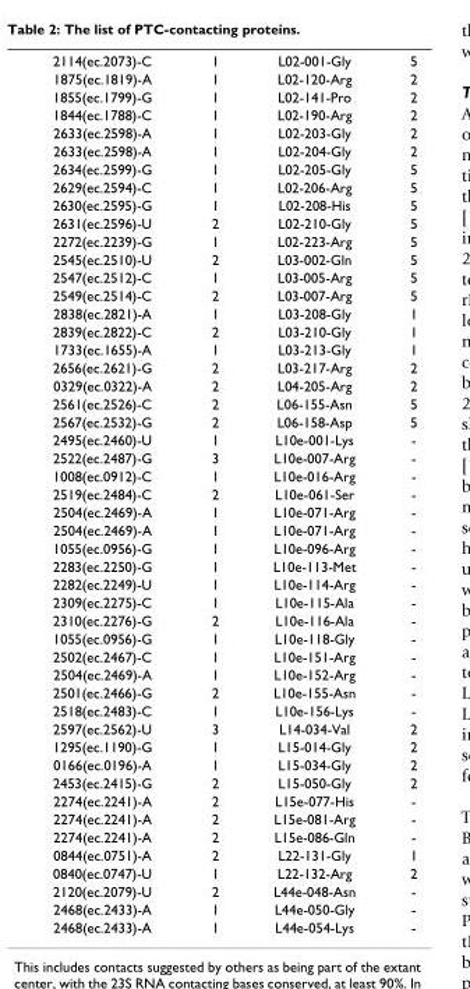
<table><tbody><tr><td>2114(ec.2073)-C</td><td>1</td><td>L02-001-Gly</td><td>5</td></tr><tr><td>1875(ec.1819)-A</td><td>1</td><td>L02-120-Arg</td><td>2</td></tr><tr><td>1855(ec.1799)-G</td><td>1</td><td>L02-141-Pro</td><td>2</td></tr><tr><td>1844(ec.1788)-C</td><td>1</td><td>L02-190-Arg</td><td>2</td></tr><tr><td>2633(ec.2598)-A</td><td>1</td><td>L02-203-Gly</td><td>2</td></tr><tr><td>2633(ec.2598)-A</td><td>1</td><td>L02-204-Gly</td><td>2</td></tr><tr><td>2634(ec.2599)-G</td><td>1</td><td>L02-205-Gly</td><td>5</td></tr><tr><td>2629(ec.2594)-C</td><td>1</td><td>L02-206-Arg</td><td>5</td></tr><tr><td>2630(ec.2595)-G</td><td>1</td><td>L02-208-His</td><td>5</td></tr><tr><td>2631(ec.2596)-U</td><td>2</td><td>L02-210-Gly</td><td>5</td></tr><tr><td>2272(ec.2239)-G</td><td>1</td><td>L02-223-Arg</td><td>5</td></tr><tr><td>2545(ec.2510)-U</td><td>2</td><td>L03-002-Gln</td><td>5</td></tr><tr><td>2547(ec.2512)-C</td><td>1</td><td>L03-005-Arg</td><td>5</td></tr><tr><td>2549(ec.2514)-C</td><td>2</td><td>L03-007-Arg</td><td>5</td></tr><tr><td>2838(ec.2821)-A</td><td>1</td><td>L03-208-Gly</td><td>1</td></tr><tr><td>2839(ec.2822)-C</td><td>2</td><td>L03-210-Gly</td><td>1</td></tr><tr><td>1733(ec.1655)-A</td><td>1</td><td>L03-213-Gly</td><td>1</td></tr><tr><td>2656(ec.2621)-G</td><td>2</td><td>L03-217-Arg</td><td>2</td></tr><tr><td>0329(ec.0322)-A</td><td>2</td><td>L04-205-Arg</td><td>2</td></tr><tr><td>2561(ec.2526)-C</td><td>2</td><td>L06-155-Asn</td><td>5</td></tr><tr><td>2567(ec.2532)-G</td><td>2</td><td>L06-158-Asp</td><td>5</td></tr><tr><td>2495(ec.2460)-U</td><td>1</td><td>L10e-001-Lys</td><td>-</td></tr><tr><td>2522(ec.2487)-G</td><td>3</td><td>L10e-007-Arg</td><td>-</td></tr><tr><td>1008(ec.0912)-C</td><td>1</td><td>L10e-016-Arg</td><td>-</td></tr><tr><td>2519(ec.2484)-C</td><td>2</td><td>L10e-061-Ser</td><td>-</td></tr><tr><td>2504(ec.2469)-A</td><td>1</td><td>L10e-071-Arg</td><td>-</td></tr><tr><td>2504(ec.2469)-A</td><td>1</td><td>L10e-071-Arg</td><td>-</td></tr><tr><td>1055(ec.0956)-G</td><td>1</td><td>L10e-096-Arg</td><td>-</td></tr><tr><td>2283(ec.2250)-G</td><td>1</td><td>L10e-113-Met</td><td>-</td></tr><tr><td>2282(ec.2249)-U</td><td>1</td><td>L10e-114-Arg</td><td>-</td></tr><tr><td>2309(ec.2275)-C</td><td>1</td><td>L10e-115-Ala</td><td>-</td></tr><tr><td>2310(ec.2276)-G</td><td>2</td><td>L10e-116-Ala</td><td>-</td></tr><tr><td>1055(ec.0956)-G</td><td>1</td><td>L10e-118-Gly</td><td>-</td></tr><tr><td>2502(ec.2467)-C</td><td>1</td><td>L10e-151-Arg</td><td>-</td></tr><tr><td>2504(ec.2469)-A</td><td>1</td><td>L10e-152-Arg</td><td>-</td></tr><tr><td>2501(ec.2466)-G</td><td>2</td><td>L10e-155-Asn</td><td>-</td></tr><tr><td>2518(ec.2483)-C</td><td>1</td><td>L10e-156-Lys</td><td>-</td></tr><tr><td>2597(ec.2562)-U</td><td>3</td><td>L14-034-Val</td><td>2</td></tr><tr><td>1295(ec.1190)-G</td><td>1</td><td>L15-014-Gly</td><td>2</td></tr><tr><td>0166(ec.0196)-A</td><td>1</td><td>L15-034-Gly</td><td>2</td></tr><tr><td>2453(ec.2415)-G</td><td>2</td><td>L15-050-Gly</td><td>2</td></tr><tr><td>2274(ec.2241)-A</td><td>2</td><td>L15e-077-His</td><td>-</td></tr><tr><td>2274(ec.2241)-A</td><td>2</td><td>L15e-081-Arg</td><td>-</td></tr><tr><td>2274(ec.2241)-A</td><td>2</td><td>L15e-086-Gln</td><td>-</td></tr><tr><td>0844(ec.0751)-A</td><td>2</td><td>L22-131-Gly</td><td>1</td></tr><tr><td>0840(ec.0747)-U</td><td>1</td><td>L22-132-Arg</td><td>2</td></tr><tr><td>2120(ec.2079)-U</td><td>2</td><td>L44e-048-Asn</td><td>-</td></tr><tr><td>2468(ec.2433)-A</td><td>1</td><td>L44e-050-Gly</td><td>-</td></tr><tr><td>2468(ec.2433)-A</td><td>1</td><td>L44e-054-Lys</td><td>-</td></tr></tbody></table>